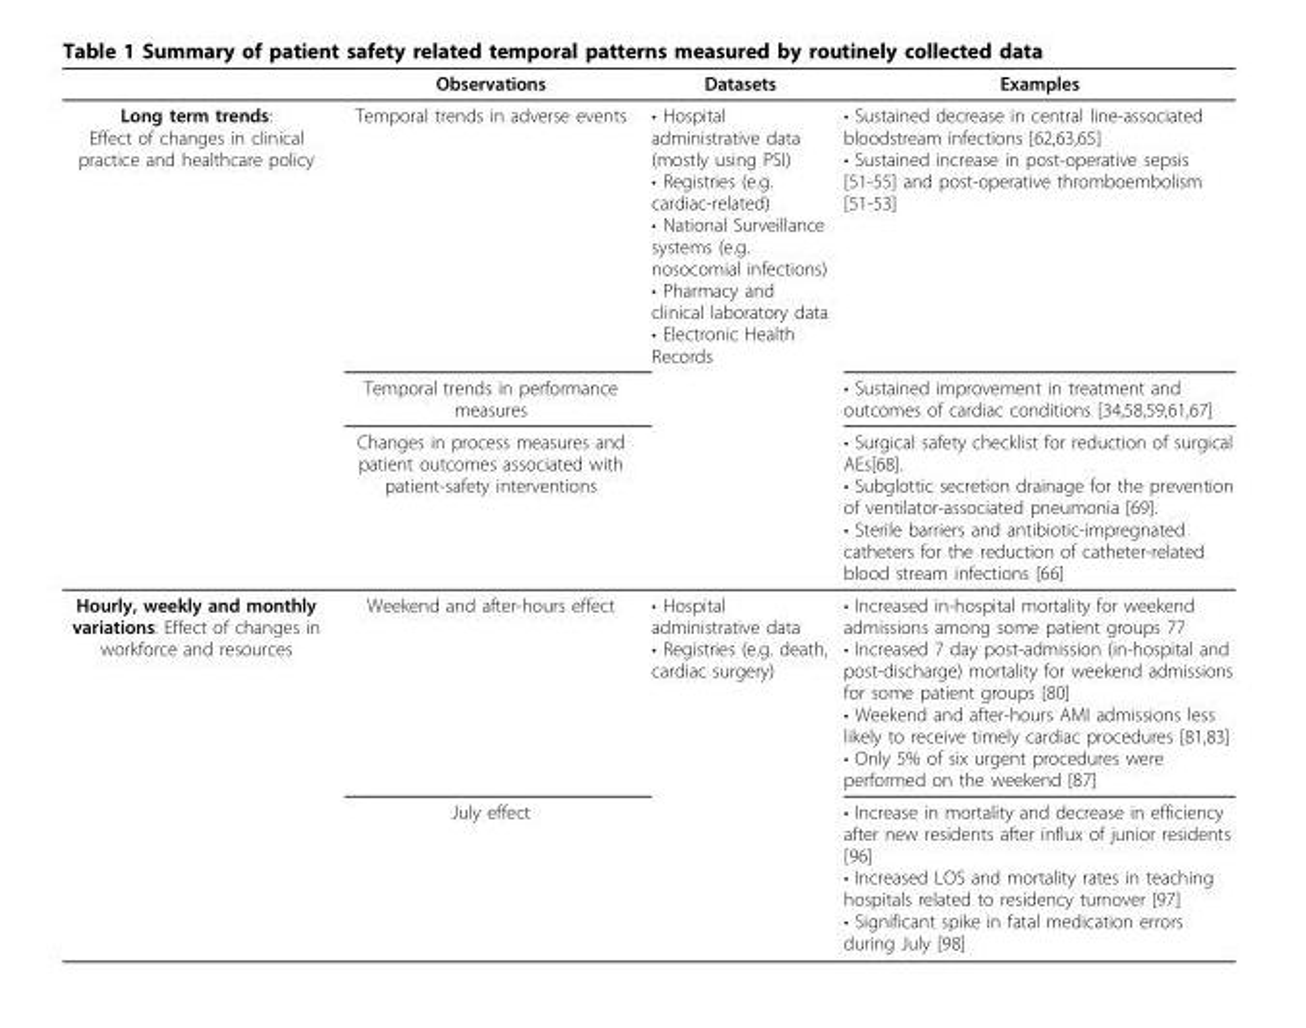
<table><thead><tr><td></td><td>Observations</td><td>Datasets</td><td>Examples</td></tr></thead><tbody><tr><td rowspan="3">Long term trends: Effect of changes in clinical practice and healthcare policy</td><td>Temporal trends in adverse events</td><td>• Hospital administrative data (mostly using PSI) • Registries (e.g. cardiac-related) • National Surveillance systems (e.g. nosocomial infections) • Pharmacy and clinical laboratory data • Electronic Health Records</td><td>• Sustained decrease in central line-associated bloodstream infections [62,63,65] • Sustained increase in post-operative sepsis [51-55] and post-operative thromboembolism [51-53]</td></tr><tr><td>Temporal trends in performance measures</td><td></td><td>• Sustained improvement in treatment and outcomes of cardiac conditions [34,58,59,61,67]</td></tr><tr><td>Changes in process measures and patient outcomes associated with patient-safety interventions</td><td></td><td>• Surgical safety checklist for reduction of surgical AEs[68]. • Subglottic secretion drainage for the prevention of ventilator-associated pneumonia [69]. • Sterile barriers and antibiotic-impregnated catheters for the reduction of catheter-related blood stream infections [66]</td></tr><tr><td rowspan="2">Hourly, weekly and monthly variations: Effect of changes in workforce and resources</td><td>Weekend and after-hours effect</td><td>• Hospital administrative data • Registries (e.g. death, cardiac surgery)</td><td>• Increased in-hospital mortality for weekend admissions among some patient groups 77 • Increased 7 day post-admission (in-hospital and post-discharge) mortality for weekend admissions for some patient groups [80] • Weekend and after-hours AMI admissions less likely to receive timely cardiac procedures [81,83] • Only 5% of six urgent procedures were performed on the weekend [87]</td></tr><tr><td>July effect</td><td></td><td>• Increase in mortality and decrease in efficiency after new residents after influx of junior residents [96] • Increased LOS and mortality rates in teaching hospitals related to residency turnover [97] • Significant spike in fatal medication errors during July [98]</td></tr></tbody></table>